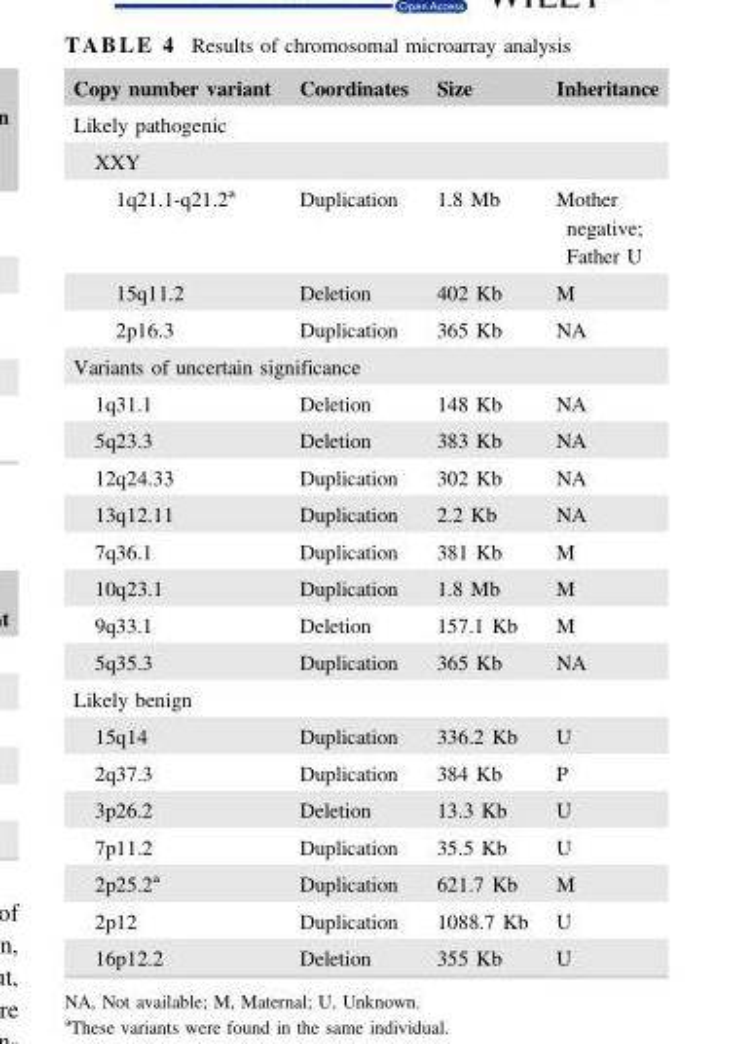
<table><thead><tr><td>Copy number variant</td><td>Coordinates</td><td>Size</td><td>Inheritance</td></tr></thead><tbody><tr><td colspan="4">Likely pathogenic</td></tr><tr><td colspan="4">XXY</td></tr><tr><td>1q21.1-q21.2<sup>a</sup></td><td>Duplication</td><td>1.8 Mb</td><td>Mother negative; Father U</td></tr><tr><td>15q11.2</td><td>Deletion</td><td>402 Kb</td><td>M</td></tr><tr><td>2p16.3</td><td>Duplication</td><td>365 Kb</td><td>NA</td></tr><tr><td colspan="4">Variants of uncertain significance</td></tr><tr><td>1q31.1</td><td>Deletion</td><td>148 Kb</td><td>NA</td></tr><tr><td>5q23.3</td><td>Deletion</td><td>383 Kb</td><td>NA</td></tr><tr><td>12q24.33</td><td>Duplication</td><td>302 Kb</td><td>NA</td></tr><tr><td>13q12.11</td><td>Duplication</td><td>2.2 Kb</td><td>NA</td></tr><tr><td>7q36.1</td><td>Duplication</td><td>381 Kb</td><td>M</td></tr><tr><td>10q23.1</td><td>Duplication</td><td>1.8 Mb</td><td>M</td></tr><tr><td>9q33.1</td><td>Deletion</td><td>157.1 Kb</td><td>M</td></tr><tr><td>5q35.3</td><td>Duplication</td><td>365 Kb</td><td>NA</td></tr><tr><td colspan="4">Likely benign</td></tr><tr><td>15q14</td><td>Duplication</td><td>336.2 Kb</td><td>U</td></tr><tr><td>2q37.3</td><td>Duplication</td><td>384 Kb</td><td>P</td></tr><tr><td>3p26.2</td><td>Deletion</td><td>13.3 Kb</td><td>U</td></tr><tr><td>7p11.2</td><td>Duplication</td><td>35.5 Kb</td><td>U</td></tr><tr><td>2p25.2<sup>a</sup></td><td>Duplication</td><td>621.7 Kb</td><td>M</td></tr><tr><td>2p12</td><td>Duplication</td><td>1088.7 Kb</td><td>U</td></tr><tr><td>16p12.2</td><td>Deletion</td><td>355 Kb</td><td>U</td></tr></tbody></table>